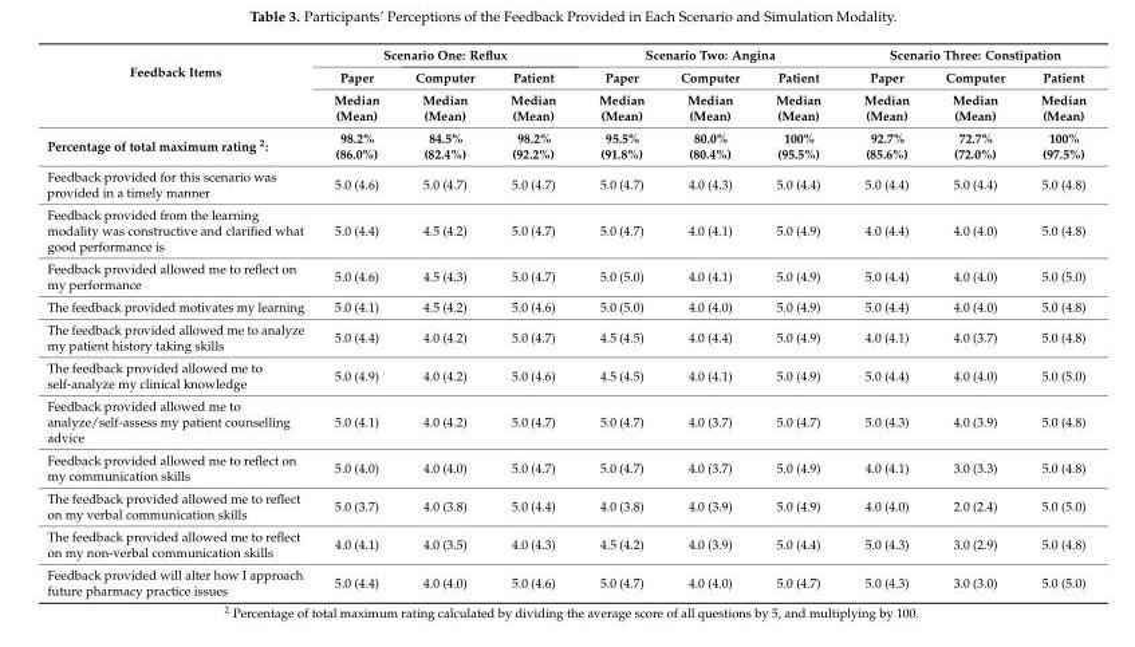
<table><thead><tr><td rowspan="3">Feedback Items</td><td colspan="3">Scenario One: Reflux</td><td colspan="3">Scenario Two: Angina</td><td colspan="3">Scenario Three: Constipation</td></tr><tr><td rowspan="2">Paper Median (Mean)</td><td rowspan="2">Computer Median (Mean)</td><td rowspan="2">Patient Median (Mean)</td><td rowspan="2">Paper Median (Mean)</td><td rowspan="2">Computer Median (Mean)</td><td rowspan="2">Patient Median (Mean)</td><td rowspan="2">Paper Median (Mean)</td><td rowspan="2">Computer Median (Mean)</td><td rowspan="2">Patient Median (Mean)</td></tr><tr></tr></thead><tbody><tr><td>Percentage of total maximum rating <sup>2</sup>:</td><td>98.2% (86.0%)</td><td>84.5% (82.4%)</td><td>98.2% (92.2%)</td><td>95.5% (91.8%)</td><td>80.0% (80.4%)</td><td>100% (95.5%)</td><td>92.7% (85.6%)</td><td>72.7% (72.0%)</td><td>100% (97.5%)</td></tr><tr><td>Feedback provided for this scenario was provided in a timely manner</td><td>5.0 (4.6)</td><td>5.0 (4.7)</td><td>5.0 (4.7)</td><td>5.0 (4.7)</td><td>4.0 (4.3)</td><td>5.0 (4.4)</td><td>5.0 (4.4)</td><td>5.0 (4.4)</td><td>5.0 (4.8)</td></tr><tr><td>Feedback provided from the learning modality was constructive and clarified what good performance is</td><td>5.0 (4.4)</td><td>4.5 (4.2)</td><td>5.0 (4.7)</td><td>5.0 (4.7)</td><td>4.0 (4.1)</td><td>5.0 (4.9)</td><td>4.0 (4.4)</td><td>4.0 (4.0)</td><td>5.0 (4.8)</td></tr><tr><td>Feedback provided allowed me to reflect on my performance</td><td>5.0 (4.6)</td><td>4.5 (4.3)</td><td>5.0 (4.7)</td><td>5.0 (5.0)</td><td>4.0 (4.1)</td><td>5.0 (4.9)</td><td>5.0 (4.4)</td><td>4.0 (4.0)</td><td>5.0 (5.0)</td></tr><tr><td>The feedback provided motivates my learning</td><td>5.0 (4.1)</td><td>4.5 (4.2)</td><td>5.0 (4.6)</td><td>5.0 (5.0)</td><td>4.0 (4.0)</td><td>5.0 (4.9)</td><td>5.0 (4.4)</td><td>4.0 (4.0)</td><td>5.0 (4.8)</td></tr><tr><td>The feedback provided allowed me to analyze my patient history taking skills</td><td>5.0 (4.4)</td><td>4.0 (4.2)</td><td>5.0 (4.7)</td><td>4.5 (4.5)</td><td>4.0 (4.4)</td><td>5.0 (4.9)</td><td>4.0 (4.1)</td><td>4.0 (3.7)</td><td>5.0 (4.8)</td></tr><tr><td>The feedback provided allowed me to self-analyze my clinical knowledge</td><td>5.0 (4.9)</td><td>4.0 (4.2)</td><td>5.0 (4.6)</td><td>4.5 (4.5)</td><td>4.0 (4.1)</td><td>5.0 (4.9)</td><td>5.0 (4.4)</td><td>4.0 (4.0)</td><td>5.0 (5.0)</td></tr><tr><td>Feedback provided allowed me to analyze/self-assess my patient counselling advice</td><td>5.0 (4.1)</td><td>4.0 (4.2)</td><td>5.0 (4.7)</td><td>5.0 (4.7)</td><td>4.0 (3.7)</td><td>5.0 (4.7)</td><td>5.0 (4.3)</td><td>4.0 (3.9)</td><td>5.0 (4.8)</td></tr><tr><td>Feedback provided allowed me to reflect on my communication skills</td><td>5.0 (4.0)</td><td>4.0 (4.0)</td><td>5.0 (4.7)</td><td>5.0 (4.7)</td><td>4.0 (3.7)</td><td>5.0 (4.9)</td><td>4.0 (4.1)</td><td>3.0 (3.3)</td><td>5.0 (4.8)</td></tr><tr><td>The feedback provided allowed me to reflect on my verbal communication skills</td><td>5.0 (3.7)</td><td>4.0 (3.8)</td><td>5.0 (4.4)</td><td>4.0 (3.8)</td><td>4.0 (3.9)</td><td>5.0 (4.9)</td><td>4.0 (4.0)</td><td>2.0 (2.4)</td><td>5.0 (5.0)</td></tr><tr><td>The feedback provided allowed me to reflect on my non-verbal communication skills</td><td>4.0 (4.1)</td><td>4.0 (3.5)</td><td>4.0 (4.3)</td><td>4.5 (4.2)</td><td>4.0 (3.9)</td><td>5.0 (4.4)</td><td>5.0 (4.3)</td><td>3.0 (2.9)</td><td>5.0 (4.8)</td></tr><tr><td>Feedback provided will alter how I approach future pharmacy practice issues</td><td>5.0 (4.4)</td><td>4.0 (4.0)</td><td>5.0 (4.6)</td><td>5.0 (4.7)</td><td>4.0 (4.0)</td><td>5.0 (4.7)</td><td>5.0 (4.3)</td><td>3.0 (3.0)</td><td>5.0 (5.0)</td></tr></tbody></table>